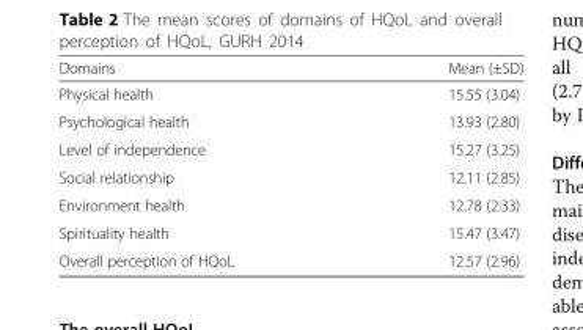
<table><thead><tr><td>Domains</td><td>Mean (±SD)</td></tr></thead><tbody><tr><td>Physical health</td><td>15.55 (3.04)</td></tr><tr><td>Psychological health</td><td>13.93 (2.80)</td></tr><tr><td>Level of independence</td><td>15.27 (3.25)</td></tr><tr><td>Social relationship</td><td>12.11 (2.85)</td></tr><tr><td>Environment health</td><td>12.78 (2.33)</td></tr><tr><td>Spirituality health</td><td>15.47 (3.47)</td></tr><tr><td>Overall perception of HQoL</td><td>12.57 (2.96)</td></tr></tbody></table>